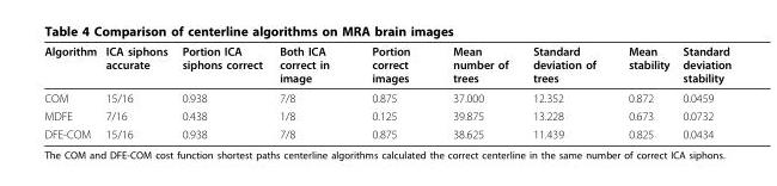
<table><thead><tr><td>Algorithm</td><td>ICA siphons accurate</td><td>Portion ICA siphons correct</td><td>Both ICA correct in image</td><td>Portion correct images</td><td>Mean number of trees</td><td>Standard deviation of trees</td><td>Mean stability</td><td>Standard deviation stability</td></tr></thead><tbody><tr><td>COM</td><td>15/16</td><td>0.938</td><td>7/8</td><td>0.875</td><td>37.000</td><td>12.352</td><td>0.872</td><td>0.0459</td></tr><tr><td>MDFE</td><td>7/16</td><td>0.438</td><td>1/8</td><td>0.125</td><td>39.875</td><td>13.228</td><td>0.673</td><td>0.0732</td></tr><tr><td>DFE-COM</td><td>15/16</td><td>0.938</td><td>7/8</td><td>0.875</td><td>38.625</td><td>11.439</td><td>0.825</td><td>0.0434</td></tr></tbody></table>